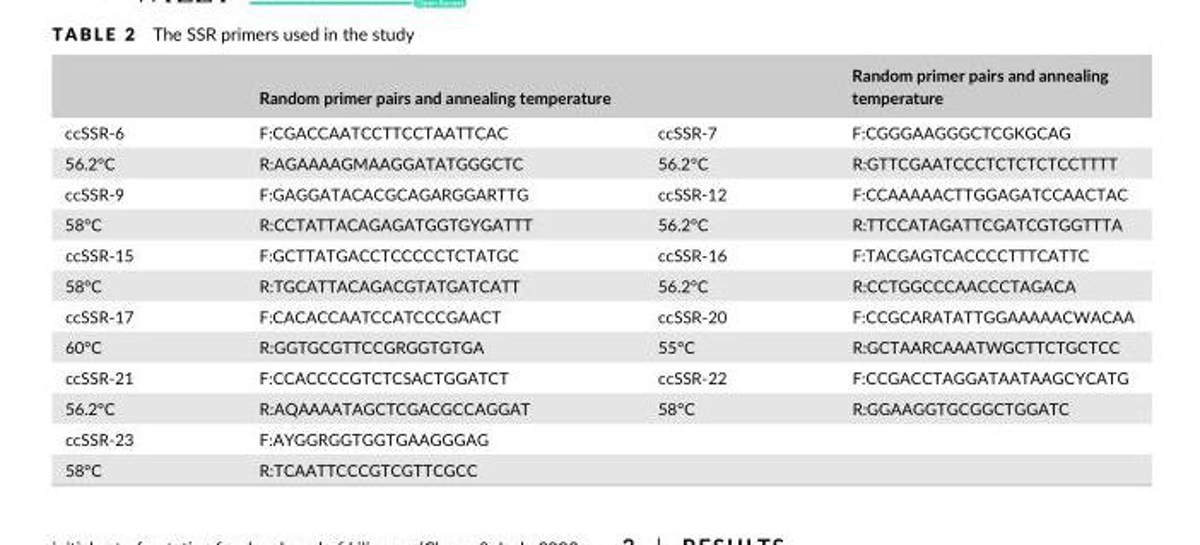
<table><thead><tr><td></td><td>Random primer pairs and annealing temperature</td><td></td><td>Random primer pairs and annealing temperature</td></tr></thead><tbody><tr><td>ccSSR- 6</td><td>F:CGACCAATCCTTCCTAATTCAC</td><td>ccSSR- 7</td><td>F:CGGGAAGGGCTCGKGCAG</td></tr><tr><td>56.2°C</td><td>R:AGAAAAGMAAGGATATGGGCTC</td><td>56.2°C</td><td>R:GTTCGAATCCCTCTCTCTCCTTTT</td></tr><tr><td>ccSSR- 9</td><td>F:GAGGATACACGCAGARGGARTTG</td><td>ccSSR- 12</td><td>F:CCAAAAACTTGGAGATCCAACTAC</td></tr><tr><td>58°C</td><td>R:CCTATTACAGAGATGGTGYGATTT</td><td>56.2°C</td><td>R:TTCCATAGATTCGATCGTGGTTTA</td></tr><tr><td>ccSSR- 15</td><td>F:GCTTATGACCTCCCCCTCTATGC</td><td>ccSSR- 16</td><td>F:TACGAGTCACCCCTTTCATTC</td></tr><tr><td>58°C</td><td>R:TGCATTACAGACGTATGATCATT</td><td>56.2°C</td><td>R:CCTGGCCCAACCCTAGACA</td></tr><tr><td>ccSSR- 17</td><td>F:CACACCAATCCATCCCGAACT</td><td>ccSSR- 20</td><td>F:CCGCARATATTGGAAAAACWACAA</td></tr><tr><td>60°C</td><td>R:GGTGCGTTCCGRGGTGTGA</td><td>55°C</td><td>R:GCTAARCAAATWGCTTCTGCTCC</td></tr><tr><td>ccSSR- 21</td><td>F:CCACCCCGTCTCSACTGGATCT</td><td>ccSSR- 22</td><td>F:CCGACCTAGGATAATAAGCYCATG</td></tr><tr><td>56.2°C</td><td>R:AQAAAATAGCTCGACGCCAGGAT</td><td>58°C</td><td>R:GGAAGGTGCGGCTGGATC</td></tr><tr><td>ccSSR- 23</td><td>F:AYGGRGGTGGTGAAGGGAG</td><td></td><td></td></tr><tr><td>58°C</td><td>R:TCAATTCCCGTCGTTCGCC</td><td></td><td></td></tr></tbody></table>